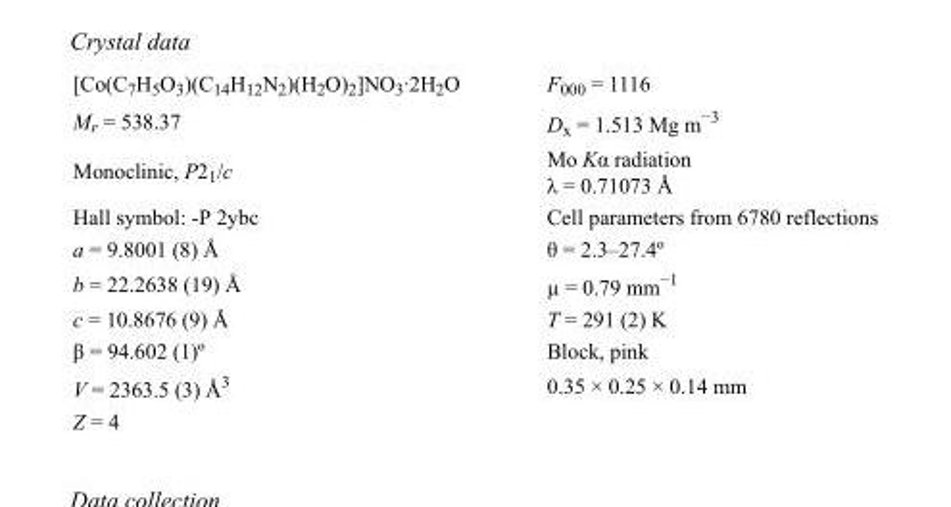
<table><tbody><tr><td>[Co(C<sub>7</sub>H<sub>5</sub>O<sub>3</sub>)(C<sub>14</sub>H<sub>12</sub>N<sub>2</sub>)(H<sub>2</sub>O)<sub>2</sub>]NO<sub>3</sub>·2H<sub>2</sub>O</td><td>F<sub>000</sub> = 1116</td></tr><tr><td>M<sub>r</sub> = 538.37</td><td>D<sub>x</sub> = 1.513 Mg m<sup>−3</sup></td></tr><tr><td>Monoclinic, P2<sub>1</sub>/c</td><td>Mo Kα radiation λ = 0.71073 Å</td></tr><tr><td>Hall symbol: -P 2ybc</td><td>Cell parameters from 6780 reflections</td></tr><tr><td>a = 9.8001 (8) Å</td><td>θ = 2.3–27.4º</td></tr><tr><td>b = 22.2638 (19) Å</td><td>µ = 0.79 mm<sup>−1</sup></td></tr><tr><td>c = 10.8676 (9) Å</td><td>T = 291 (2) K</td></tr><tr><td>β = 94.602 (1)º</td><td>Block, pink</td></tr><tr><td>V = 2363.5 (3) Å<sup>3</sup></td><td>0.35 × 0.25 × 0.14 mm</td></tr><tr><td>Z = 4</td><td></td></tr></tbody></table>